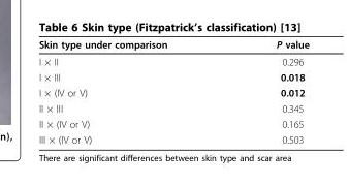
<table><thead><tr><td>Skin type under comparison</td><td>P value</td></tr></thead><tbody><tr><td>I × II</td><td>0.296</td></tr><tr><td>I × III</td><td>0.018</td></tr><tr><td>I × (IV or V)</td><td>0.012</td></tr><tr><td>II × III</td><td>0.345</td></tr><tr><td>II × (IV or V)</td><td>0.165</td></tr><tr><td>III × (IV or V)</td><td>0.503</td></tr></tbody></table>